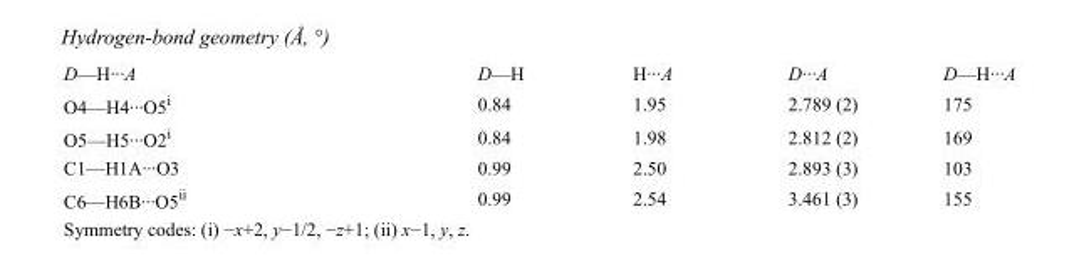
<table><tbody><tr><td>D—H···A</td><td>D—H</td><td>H···A</td><td>D···A</td><td>D—H···A</td></tr><tr><td>O4—H4···O5<sup>i</sup></td><td>0.84</td><td>1.95</td><td>2.789 (2)</td><td>175</td></tr><tr><td>O5—H5···O2<sup>i</sup></td><td>0.84</td><td>1.98</td><td>2.812 (2)</td><td>169</td></tr><tr><td>C1—H1A···O3</td><td>0.99</td><td>2.50</td><td>2.893 (3)</td><td>103</td></tr><tr><td>C6—H6B···O5<sup>ii</sup></td><td>0.99</td><td>2.54</td><td>3.461 (3)</td><td>155</td></tr></tbody></table>